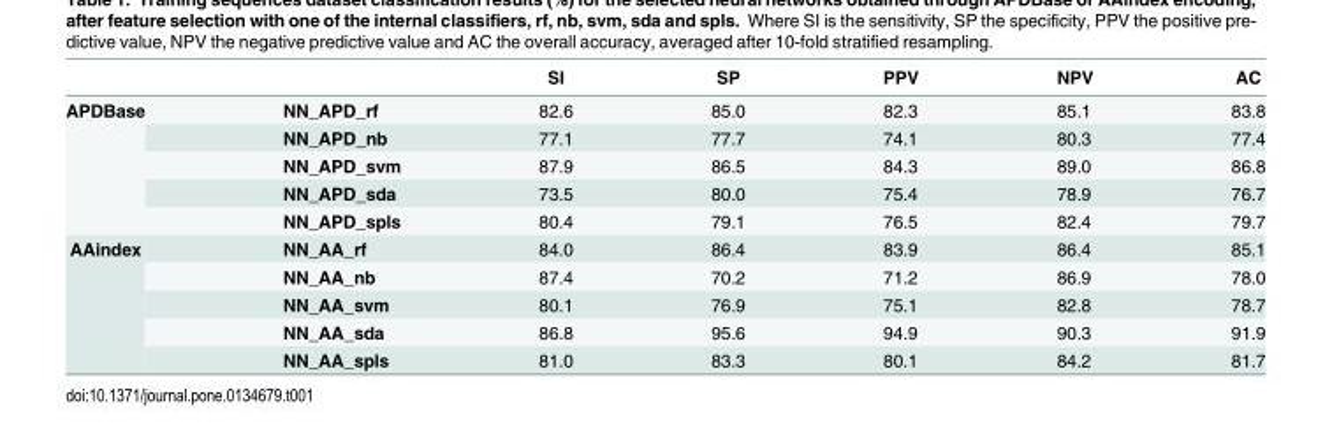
<table><thead><tr><td></td><td></td><td>SI</td><td>SP</td><td>PPV</td><td>NPV</td><td>AC</td></tr></thead><tbody><tr><td rowspan="5">APDBase</td><td>NN_APD_rf</td><td>82.6</td><td>85.0</td><td>82.3</td><td>85.1</td><td>83.8</td></tr><tr><td>NN_APD_nb</td><td>77.1</td><td>77.7</td><td>74.1</td><td>80.3</td><td>77.4</td></tr><tr><td>NN_APD_svm</td><td>87.9</td><td>86.5</td><td>84.3</td><td>89.0</td><td>86.8</td></tr><tr><td>NN_APD_sda</td><td>73.5</td><td>80.0</td><td>75.4</td><td>78.9</td><td>76.7</td></tr><tr><td>NN_APD_spls</td><td>80.4</td><td>79.1</td><td>76.5</td><td>82.4</td><td>79.7</td></tr><tr><td rowspan="5">AAindex</td><td>NN_AA_rf</td><td>84.0</td><td>86.4</td><td>83.9</td><td>86.4</td><td>85.1</td></tr><tr><td>NN_AA_nb</td><td>87.4</td><td>70.2</td><td>71.2</td><td>86.9</td><td>78.0</td></tr><tr><td>NN_AA_svm</td><td>80.1</td><td>76.9</td><td>75.1</td><td>82.8</td><td>78.7</td></tr><tr><td>NN_AA_sda</td><td>86.8</td><td>95.6</td><td>94.9</td><td>90.3</td><td>91.9</td></tr><tr><td>NN_AA_spls</td><td>81.0</td><td>83.3</td><td>80.1</td><td>84.2</td><td>81.7</td></tr></tbody></table>